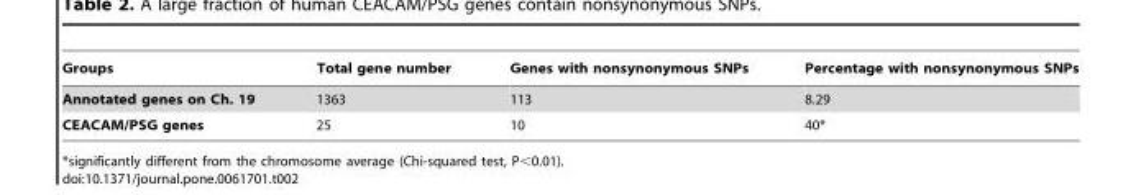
<table><thead><tr><td>Groups</td><td>Total gene number</td><td>Genes with nonsynonymous SNPs</td><td>Percentage with nonsynonymous SNPs</td></tr></thead><tbody><tr><td>Annotated genes on Ch. 19</td><td>1363</td><td>113</td><td>8.29</td></tr><tr><td>CEACAM/PSG genes</td><td>25</td><td>10</td><td>40*</td></tr></tbody></table>